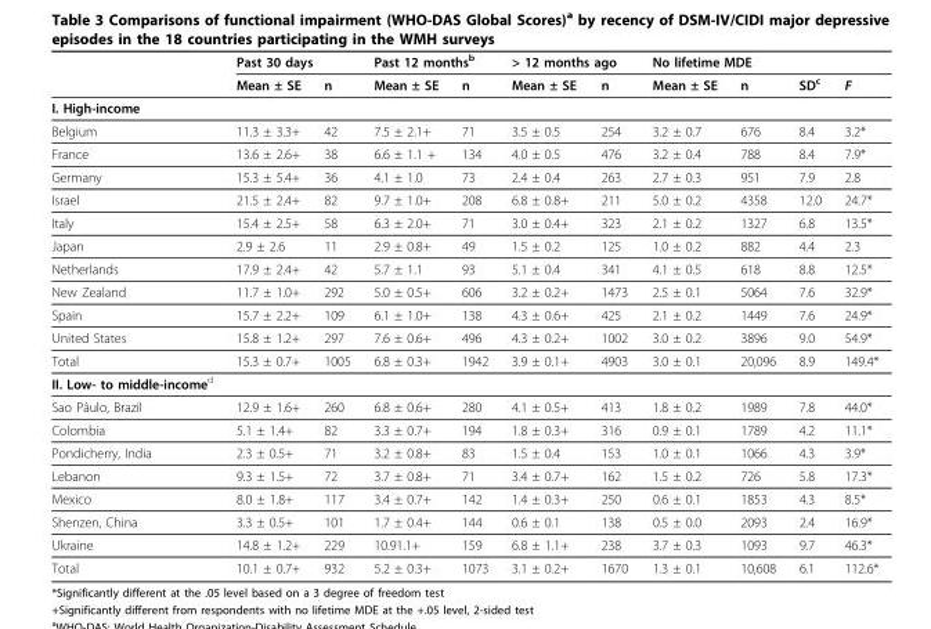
<table><thead><tr><td rowspan="2"></td><td colspan="2">Past 30 days</td><td colspan="2">Past 12 monthsb</td><td colspan="2">&gt; 12 months ago</td><td colspan="2">No lifetime MDE</td><td rowspan="2">SDc</td><td rowspan="2">F</td></tr><tr><td>Mean ± SE</td><td>n</td><td>Mean ± SE</td><td>n</td><td>Mean ± SE</td><td>n</td><td>Mean ± SE</td><td>n</td></tr></thead><tbody><tr><td colspan="11">I. High-income</td></tr><tr><td>Belgium</td><td>11.3 ± 3.3+</td><td>42</td><td>7.5 ± 2.1+</td><td>71</td><td>3.5 ± 0.5</td><td>254</td><td>3.2 ± 0.7</td><td>676</td><td>8.4</td><td>3.2*</td></tr><tr><td>France</td><td>13.6 ± 2.6+</td><td>38</td><td>6.6 ± 1.1 +</td><td>134</td><td>4.0 ± 0.5</td><td>476</td><td>3.2 ± 0.4</td><td>788</td><td>8.4</td><td>7.9*</td></tr><tr><td>Germany</td><td>15.3 ± 5.4+</td><td>36</td><td>4.1 ± 1.0</td><td>73</td><td>2.4 ± 0.4</td><td>263</td><td>2.7 ± 0.3</td><td>951</td><td>7.9</td><td>2.8</td></tr><tr><td>Israel</td><td>21.5 ± 2.4+</td><td>82</td><td>9.7 ± 1.0+</td><td>208</td><td>6.8 ± 0.8+</td><td>211</td><td>5.0 ± 0.2</td><td>4358</td><td>12.0</td><td>24.7*</td></tr><tr><td>Italy</td><td>15.4 ± 2.5+</td><td>58</td><td>6.3 ± 2.0+</td><td>71</td><td>3.0 ± 0.4+</td><td>323</td><td>2.1 ± 0.2</td><td>1327</td><td>6.8</td><td>13.5*</td></tr><tr><td>Japan</td><td>2.9 ± 2.6</td><td>11</td><td>2.9 ± 0.8+</td><td>49</td><td>1.5 ± 0.2</td><td>125</td><td>1.0 ± 0.2</td><td>882</td><td>4.4</td><td>2.3</td></tr><tr><td>Netherlands</td><td>17.9 ± 2.4+</td><td>42</td><td>5.7 ± 1.1</td><td>93</td><td>5.1 ± 0.4</td><td>341</td><td>4.1 ± 0.5</td><td>618</td><td>8.8</td><td>12.5*</td></tr><tr><td>New Zealand</td><td>11.7 ± 1.0+</td><td>292</td><td>5.0 ± 0.5+</td><td>606</td><td>3.2 ± 0.2+</td><td>1473</td><td>2.5 ± 0.1</td><td>5064</td><td>7.6</td><td>32.9*</td></tr><tr><td>Spain</td><td>15.7 ± 2.2+</td><td>109</td><td>6.1 ± 1.0+</td><td>138</td><td>4.3 ± 0.6+</td><td>425</td><td>2.1 ± 0.2</td><td>1449</td><td>7.6</td><td>24.9*</td></tr><tr><td>United States</td><td>15.8 ± 1.2+</td><td>297</td><td>7.6 ± 0.6+</td><td>496</td><td>4.3 ± 0.2+</td><td>1002</td><td>3.0 ± 0.2</td><td>3896</td><td>9.0</td><td>54.9*</td></tr><tr><td>Total</td><td>15.3 ± 0.7+</td><td>1005</td><td>6.8 ± 0.3+</td><td>1942</td><td>3.9 ± 0.1+</td><td>4903</td><td>3.0 ± 0.1</td><td>20,096</td><td>8.9</td><td>149.4*</td></tr><tr><td colspan="11">II. Low- to middle-incomed</td></tr><tr><td>Sao Pâulo, Brazil</td><td>12.9 ± 1.6+</td><td>260</td><td>6.8 ± 0.6+</td><td>280</td><td>4.1 ± 0.5+</td><td>413</td><td>1.8 ± 0.2</td><td>1989</td><td>7.8</td><td>44.0*</td></tr><tr><td>Colombia</td><td>5.1 ± 1.4+</td><td>82</td><td>3.3 ± 0.7+</td><td>194</td><td>1.8 ± 0.3+</td><td>316</td><td>0.9 ± 0.1</td><td>1789</td><td>4.2</td><td>11.1*</td></tr><tr><td>Pondicherry, India</td><td>2.3 ± 0.5+</td><td>71</td><td>3.2 ± 0.8+</td><td>83</td><td>1.5 ± 0.4</td><td>153</td><td>1.0 ± 0.1</td><td>1066</td><td>4.3</td><td>3.9*</td></tr><tr><td>Lebanon</td><td>9.3 ± 1.5+</td><td>72</td><td>3.7 ± 0.8+</td><td>71</td><td>3.4 ± 0.7+</td><td>162</td><td>1.5 ± 0.2</td><td>726</td><td>5.8</td><td>17.3*</td></tr><tr><td>Mexico</td><td>8.0 ± 1.8+</td><td>117</td><td>3.4 ± 0.7+</td><td>142</td><td>1.4 ± 0.3+</td><td>250</td><td>0.6 ± 0.1</td><td>1853</td><td>4.3</td><td>8.5*</td></tr><tr><td>Shenzen, China</td><td>3.3 ± 0.5+</td><td>101</td><td>1.7 ± 0.4+</td><td>144</td><td>0.6 ± 0.1</td><td>138</td><td>0.5 ± 0.0</td><td>2093</td><td>2.4</td><td>16.9*</td></tr><tr><td>Ukraine</td><td>14.8 ± 1.2+</td><td>229</td><td>10.91.1+</td><td>159</td><td>6.8 ± 1.1+</td><td>238</td><td>3.7 ± 0.3</td><td>1093</td><td>9.7</td><td>46.3*</td></tr><tr><td>Total</td><td>10.1 ± 0.7+</td><td>932</td><td>5.2 ± 0.3+</td><td>1073</td><td>3.1 ± 0.2+</td><td>1670</td><td>1.3 ± 0.1</td><td>10,608</td><td>6.1</td><td>112.6*</td></tr></tbody></table>